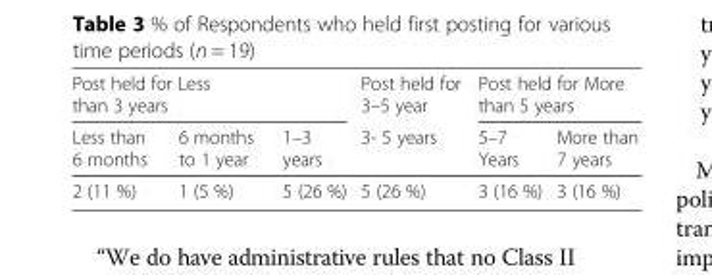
<table><thead><tr><td colspan="3">Post held for Less than 3 years</td><td rowspan="2">Post held for 3–5 year 3- 5 years</td><td colspan="2">Post held for More than 5 years</td></tr><tr><td>Less than 6 months</td><td>6 months to 1 year</td><td>1–3 years</td><td>5–7 Years</td><td>More than 7 years</td></tr></thead><tbody><tr><td>2 (11 %)</td><td>1 (5 %)</td><td>5 (26 %)</td><td>5 (26 %)</td><td>3 (16 %)</td><td>3 (16 %)</td></tr></tbody></table>